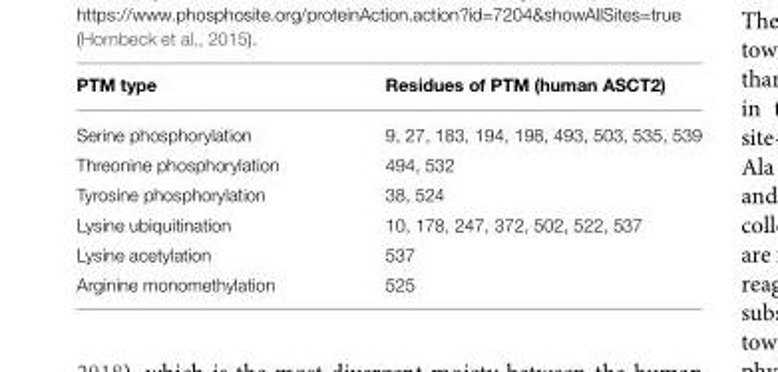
<table><thead><tr><td>PTM type</td><td>Residues of PTM (human ASCT2)</td></tr></thead><tbody><tr><td>Serine phosphorylation</td><td>9, 27, 183, 194, 198, 493, 503, 535, 539</td></tr><tr><td>Threonine phosphorylation</td><td>494, 532</td></tr><tr><td>Tyrosine phosphorylation</td><td>38, 524</td></tr><tr><td>Lysine ubiquitination</td><td>10, 178, 247, 372, 502, 522, 537</td></tr><tr><td>Lysine acetylation</td><td>537</td></tr><tr><td>Arginine monomethylation</td><td>525</td></tr></tbody></table>